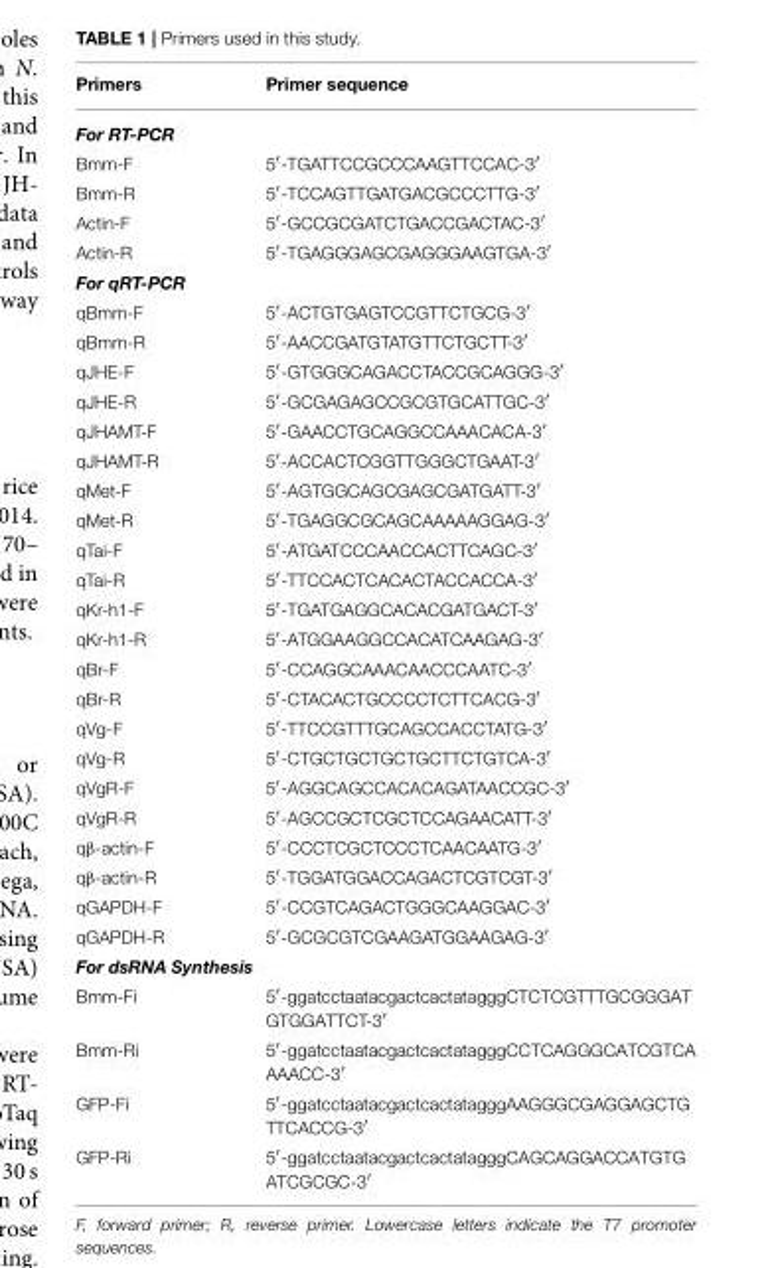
<table><thead><tr><td>Primers</td><td>Primer sequence</td></tr></thead><tbody><tr><td colspan="2">For RT-PCR</td></tr><tr><td>Bmm-F</td><td>5′-TGATTCCGCCCAAGTTCCAC-3′</td></tr><tr><td>Bmm-R</td><td>5′-TCCAGTTGATGACGCCCTTG-3′</td></tr><tr><td>Actin-F</td><td>5′-GCCGCGATCTGACCGACTAC-3′</td></tr><tr><td>Actin-R</td><td>5′-TGAGGGAGCGAGGGAAGTGA-3′</td></tr><tr><td colspan="2">For qRT-PCR</td></tr><tr><td>qBmm-F</td><td>5′-ACTGTGAGTCCGTTCTGCG-3′</td></tr><tr><td>qBmm-R</td><td>5′-AACCGATGTATGTTCTGCTT-3′</td></tr><tr><td>qJHE-F</td><td>5′-GTGGGCAGACCTACCGCAGGG-3′</td></tr><tr><td>qJHE-R</td><td>5′-GCGAGAGCCGCGTGCATTGC-3′</td></tr><tr><td>qJHAMT-F</td><td>5′-GAACCTGCAGGCCAAACACA-3′</td></tr><tr><td>qJHAMT-R</td><td>5′-ACCACTCGGTTGGGCTGAAT-3′</td></tr><tr><td>qMet-F</td><td>5′-AGTGGCAGCGAGCGATGATT-3′</td></tr><tr><td>qMet-R</td><td>5′-TGAGGCGCAGCAAAAAGGAG-3′</td></tr><tr><td>qTai-F</td><td>5′-ATGATCCCAACCACTTCAGC-3′</td></tr><tr><td>qTai-R</td><td>5′-TTCCACTCACACTACCACCA-3′</td></tr><tr><td>qKr-h1-F</td><td>5′-TGATGAGGCACACGATGACT-3′</td></tr><tr><td>qKr-h1-R</td><td>5′-ATGGAAGGCCACATCAAGAG-3′</td></tr><tr><td>qBr-F</td><td>5′-CCAGGCAAACAACCCAATC-3′</td></tr><tr><td>qBr-R</td><td>5′-CTACACTGCCCCTCTTCACG-3′</td></tr><tr><td>qVg-F</td><td>5′-TTCCGTTTGCAGCCACCTATG-3′</td></tr><tr><td>qVg-R</td><td>5′-CTGCTGCTGCTGCTTCTGTCA-3′</td></tr><tr><td>qVgR-F</td><td>5′-AGGCAGCCACACAGATAACCGC-3′</td></tr><tr><td>qVgR-R</td><td>5′-AGCCGCTCGCTCCAGAACATT-3′</td></tr><tr><td>qβ-actin-F</td><td>5′-CCCTCGCTCCCTCAACAATG-3′</td></tr><tr><td>qβ-actin-R</td><td>5′-TGGATGGACCAGACTCGTCGT-3′</td></tr><tr><td>qGAPDH-F</td><td>5′-CCGTCAGACTGGGCAAGGAC-3′</td></tr><tr><td>qGAPDH-R</td><td>5′-GCGCGTCGAAGATGGAAGAG-3′</td></tr><tr><td colspan="2">For dsRNA Synthesis</td></tr><tr><td>Bmm-Fi</td><td>5′-ggatcctaatacgactcactatagggCTCTCGTTTGCGGGAT GTGGATTCT-3′</td></tr><tr><td>Bmm-Ri</td><td>5′-ggatcctaatacgactcactatagggCCTCAGGGCATCGTCA AAACC-3′</td></tr><tr><td>GFP-Fi</td><td>5′-ggatcctaatacgactcactatagggAAGGGCGAGGAGCTG TTCACCG-3′</td></tr><tr><td>GFP-Ri</td><td>5′-ggatcctaatacgactcactatagggCAGCAGGACCATGTG ATCGCGC-3′</td></tr></tbody></table>